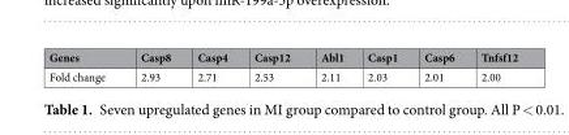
<table><thead><tr><td>Genes</td><td>Casp8</td><td>Casp4</td><td>Casp12</td><td>Abl1</td><td>Casp1</td><td>Casp6</td><td>Tnfsf12</td></tr></thead><tbody><tr><td>Fold change</td><td>2.93</td><td>2.71</td><td>2.53</td><td>2.11</td><td>2.03</td><td>2.01</td><td>2.00</td></tr></tbody></table>